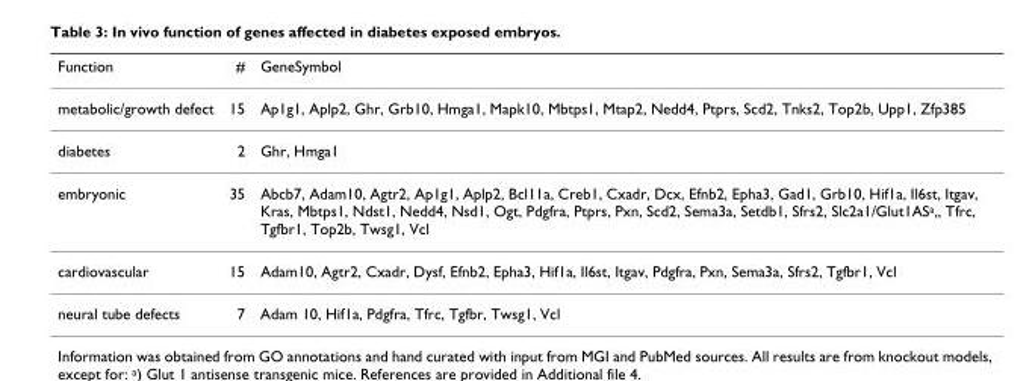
<table><thead><tr><td>Function</td><td>#</td><td>GeneSymbol</td></tr></thead><tbody><tr><td>metabolic/growth defect</td><td>15</td><td>Ap1g1, Aplp2, Ghr, Grb10, Hmga1, Mapk10, Mbtps1, Mtap2, Nedd4, Ptprs, Scd2, Tnks2, Top2b, Upp1, Zfp385</td></tr><tr><td>diabetes</td><td>2</td><td>Ghr, Hmga1</td></tr><tr><td>embryonic</td><td>35</td><td>Abcb7, Adam10, Agtr2, Ap1g1, Aplp2, Bcl11a, Creb1, Cxadr, Dcx, Efnb2, Epha3, Gad1, Grb10, Hif1a, Il6st, Itgav, Kras, Mbtps1, Ndst1, Nedd4, Nsd1, Ogt, Pdgfra, Ptprs, Pxn, Scd2, Sema3a, Setdb1, Sfrs2, Slc2a1/Glut1AS<sup>a</sup>,, Tfrc, Tgfbr1, Top2b, Twsg1, Vcl</td></tr><tr><td>cardiovascular</td><td>15</td><td>Adam10, Agtr2, Cxadr, Dysf, Efnb2, Epha3, Hif1a, Il6st, Itgav, Pdgfra, Pxn, Sema3a, Sfrs2, Tgfbr1, Vcl</td></tr><tr><td>neural tube defects</td><td>7</td><td>Adam 10, Hif1a, Pdgfra, Tfrc, Tgfbr, Twsg1, Vcl</td></tr></tbody></table>